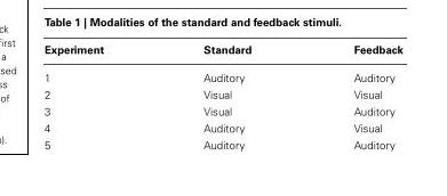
<table><thead><tr><td>Experiment</td><td>Standard</td><td>Feedback</td></tr></thead><tbody><tr><td>1</td><td>Auditory</td><td>Auditory</td></tr><tr><td>2</td><td>Visual</td><td>Visual</td></tr><tr><td>3</td><td>Visual</td><td>Auditory</td></tr><tr><td>4</td><td>Auditory</td><td>Visual</td></tr><tr><td>5</td><td>Auditory</td><td>Auditory</td></tr></tbody></table>